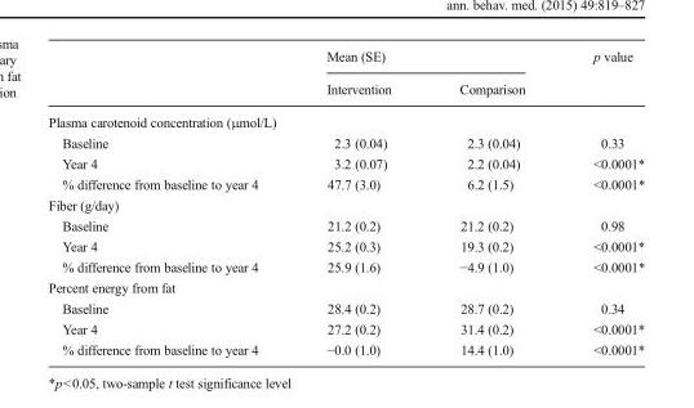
<table><thead><tr><td rowspan="2"></td><td colspan="2">Mean (SE)</td><td rowspan="2">p value</td></tr><tr><td>Intervention</td><td>Comparison</td></tr></thead><tbody><tr><td colspan="4">Plasma carotenoid concentration (μmol/L)</td></tr><tr><td>Baseline</td><td>2.3 (0.04)</td><td>2.3 (0.04)</td><td>0.33</td></tr><tr><td>Year 4</td><td>3.2 (0.07)</td><td>2.2 (0.04)</td><td>&lt;0.0001*</td></tr><tr><td>% difference from baseline to year 4</td><td>47.7 (3.0)</td><td>6.2 (1.5)</td><td>&lt;0.0001*</td></tr><tr><td colspan="4">Fiber (g/day)</td></tr><tr><td>Baseline</td><td>21.2 (0.2)</td><td>21.2 (0.2)</td><td>0.98</td></tr><tr><td>Year 4</td><td>25.2 (0.3)</td><td>19.3 (0.2)</td><td>&lt;0.0001*</td></tr><tr><td>% difference from baseline to year 4</td><td>25.9 (1.6)</td><td>−4.9 (1.0)</td><td>&lt;0.0001*</td></tr><tr><td colspan="4">Percent energy from fat</td></tr><tr><td>Baseline</td><td>28.4 (0.2)</td><td>28.7 (0.2)</td><td>0.34</td></tr><tr><td>Year 4</td><td>27.2 (0.2)</td><td>31.4 (0.2)</td><td>&lt;0.0001*</td></tr><tr><td>% difference from baseline to year 4</td><td>−0.0 (1.0)</td><td>14.4 (1.0)</td><td>&lt;0.0001*</td></tr></tbody></table>